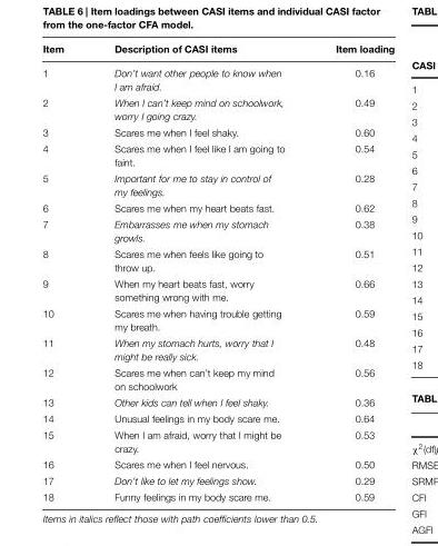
<table><thead><tr><td>Item</td><td>Description of CASI items</td><td>Item loading</td></tr></thead><tbody><tr><td>1</td><td>Don’t want other people to know when I am afraid.</td><td>0.16</td></tr><tr><td>2</td><td>When I can’t keep mind on schoolwork, worry I going crazy.</td><td>0.49</td></tr><tr><td>3</td><td>Scares me when I feel shaky.</td><td>0.60</td></tr><tr><td>4</td><td>Scares me when I feel like I am going to faint.</td><td>0.54</td></tr><tr><td>5</td><td>Important for me to stay in control of my feelings.</td><td>0.28</td></tr><tr><td>6</td><td>Scares me when my heart beats fast.</td><td>0.62</td></tr><tr><td>7</td><td>Embarrasses me when my stomach growls.</td><td>0.38</td></tr><tr><td>8</td><td>Scares me when feels like going to throw up.</td><td>0.51</td></tr><tr><td>9</td><td>When my heart beats fast, worry something wrong with me.</td><td>0.66</td></tr><tr><td>10</td><td>Scares me when having trouble getting my breath.</td><td>0.59</td></tr><tr><td>11</td><td>When my stomach hurts, worry that I might be really sick.</td><td>0.48</td></tr><tr><td>12</td><td>Scares me when can’t keep my mind on schoolwork</td><td>0.56</td></tr><tr><td>13</td><td>Other kids can tell when I feel shaky.</td><td>0.36</td></tr><tr><td>14</td><td>Unusual feelings in my body scare me.</td><td>0.64</td></tr><tr><td>15</td><td>When I am afraid, worry that I might be crazy.</td><td>0.53</td></tr><tr><td>16</td><td>Scares me when I feel nervous.</td><td>0.50</td></tr><tr><td>17</td><td>Don’t like to let my feelings show.</td><td>0.29</td></tr><tr><td>18</td><td>Funny feelings in my body scare me.</td><td>0.59</td></tr></tbody></table>